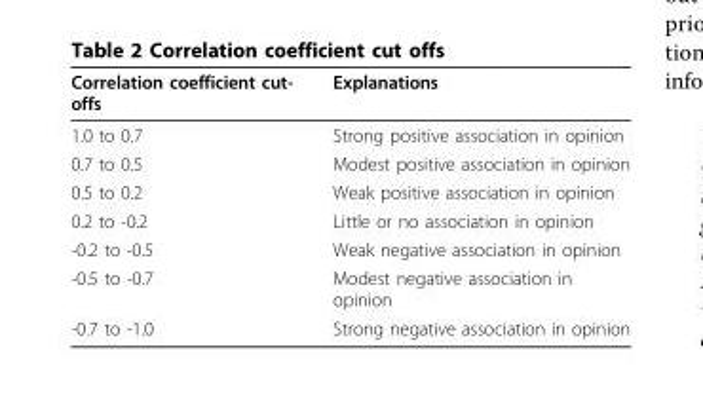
<table><thead><tr><td>Correlation coefficient cut- offs</td><td>Explanations</td></tr></thead><tbody><tr><td>1.0 to 0.7</td><td>Strong positive association in opinion</td></tr><tr><td>0.7 to 0.5</td><td>Modest positive association in opinion</td></tr><tr><td>0.5 to 0.2</td><td>Weak positive association in opinion</td></tr><tr><td>0.2 to -0.2</td><td>Little or no association in opinion</td></tr><tr><td>-0.2 to -0.5</td><td>Weak negative association in opinion</td></tr><tr><td>-0.5 to -0.7</td><td>Modest negative association in opinion</td></tr><tr><td>-0.7 to -1.0</td><td>Strong negative association in opinion</td></tr></tbody></table>